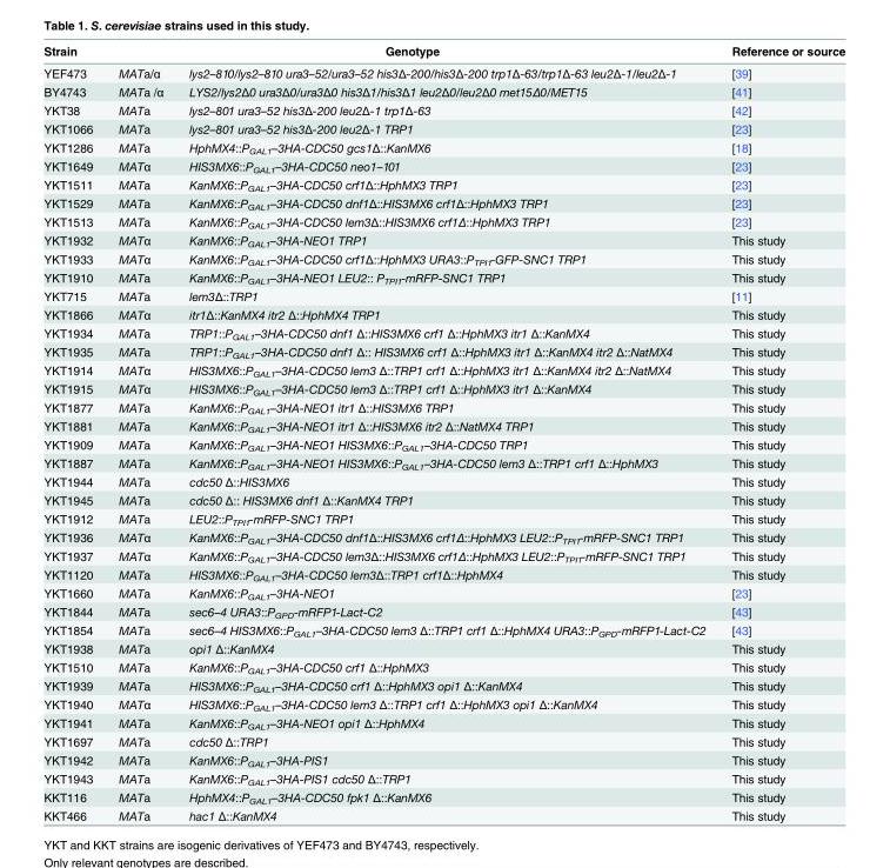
<table><thead><tr><td rowspan="2">Strain YEF473</td><td colspan="2">Genotype</td><td rowspan="2">Reference or source [39]</td></tr><tr><td>MATa/α</td><td>lys2–810/lys2–810 ura3–52/ura3–52 his3Δ-200/his3Δ-200 trp1Δ-63/trp1Δ-63 leu2Δ-1/leu2Δ-1</td></tr></thead><tbody><tr><td>BY4743</td><td>MATa /α</td><td>LYS2/lys2Δ0 ura3Δ0/ura3Δ0 his3Δ1/his3Δ1 leu2Δ0/leu2Δ0 met15Δ0/MET15</td><td>[41]</td></tr><tr><td>YKT38</td><td>MATa</td><td>lys2–801 ura3–52 his3Δ-200 leu2Δ-1 trp1Δ-63</td><td>[42]</td></tr><tr><td>YKT1066</td><td>MATa</td><td>lys2–801 ura3–52 his3Δ-200 leu2Δ-1 TRP1</td><td>[23]</td></tr><tr><td>YKT1286</td><td>MATa</td><td>HphMX4::P<sub>GAL1</sub>–3HA-CDC50 gcs1Δ::KanMX6</td><td>[18]</td></tr><tr><td>YKT1649</td><td>MATα</td><td>HIS3MX6::P<sub>GAL1</sub>–3HA-CDC50 neo1–101</td><td>[23]</td></tr><tr><td>YKT1511</td><td>MATa</td><td>KanMX6::P<sub>GAL1</sub>–3HA-CDC50 crf1Δ::HphMX3 TRP1</td><td>[23]</td></tr><tr><td>YKT1529</td><td>MATa</td><td>KanMX6::P<sub>GAL1</sub>–3HA-CDC50 dnf1Δ::HIS3MX6 crf1Δ::HphMX3 TRP1</td><td>[23]</td></tr><tr><td>YKT1513</td><td>MATa</td><td>KanMX6::P<sub>GAL1</sub>–3HA-CDC50 lem3Δ::HIS3MX6 crf1Δ::HphMX3 TRP1</td><td>[23]</td></tr><tr><td>YKT1932</td><td>MATα</td><td>KanMX6::P<sub>GAL1</sub>–3HA-NEO1 TRP1</td><td>This study</td></tr><tr><td>YKT1933</td><td>MATα</td><td>KanMX6::P<sub>GAL1</sub>–3HA-CDC50 crf1Δ::HphMX3 URA3::P<sub>TPI1</sub>-GFP-SNC1 TRP1</td><td>This study</td></tr><tr><td>YKT1910</td><td>MATa</td><td>KanMX6::P<sub>GAL1</sub>–3HA-NEO1 LEU2:: P<sub>TPI1</sub>-mRFP-SNC1 TRP1</td><td>This study</td></tr><tr><td>YKT715</td><td>MATa</td><td>lem3Δ::TRP1</td><td>[11]</td></tr><tr><td>YKT1866</td><td>MATα</td><td>itr1Δ::KanMX4 itr2 Δ::HphMX4 TRP1</td><td>This study</td></tr><tr><td>YKT1934</td><td>MATa</td><td>TRP1::P<sub>GAL1</sub>–3HA-CDC50 dnf1 Δ::HIS3MX6 crf1 Δ::HphMX3 itr1 Δ::KanMX4</td><td>This study</td></tr><tr><td>YKT1935</td><td>MATa</td><td>TRP1::P<sub>GAL1</sub>–3HA-CDC50 dnf1 Δ:: HIS3MX6 crf1 Δ::HphMX3 itr1 Δ::KanMX4 itr2 Δ::NatMX4</td><td>This study</td></tr><tr><td>YKT1914</td><td>MATα</td><td>HIS3MX6::P<sub>GAL1</sub>–3HA-CDC50 lem3 Δ::TRP1 crf1 Δ::HphMX3 itr1 Δ::KanMX4 itr2 Δ::NatMX4</td><td>This study</td></tr><tr><td>YKT1915</td><td>MATα</td><td>HIS3MX6::P<sub>GAL1</sub>–3HA-CDC50 lem3 Δ::TRP1 crf1 Δ::HphMX3 itr1 Δ::KanMX4</td><td>This study</td></tr><tr><td>YKT1877</td><td>MATa</td><td>KanMX6::P<sub>GAL1</sub>–3HA-NEO1 itr1 Δ::HIS3MX6 TRP1</td><td>This study</td></tr><tr><td>YKT1881</td><td>MATa</td><td>KanMX6::P<sub>GAL1</sub>–3HA-NEO1 itr1 Δ::HIS3MX6 itr2 Δ::NatMX4 TRP1</td><td>This study</td></tr><tr><td>YKT1909</td><td>MATa</td><td>KanMX6::P<sub>GAL1</sub>–3HA-NEO1 HIS3MX6::P<sub>GAL1</sub>–3HA-CDC50 TRP1</td><td>This study</td></tr><tr><td>YKT1887</td><td>MATa</td><td>KanMX6::P<sub>GAL1</sub>–3HA-NEO1 HIS3MX6::P<sub>GAL1</sub>–3HA-CDC50 lem3 Δ::TRP1 crf1 Δ::HphMX3</td><td>This study</td></tr><tr><td>YKT1944</td><td>MATa</td><td>cdc50 Δ::HIS3MX6</td><td>This study</td></tr><tr><td>YKT1945</td><td>MATa</td><td>cdc50 Δ:: HIS3MX6 dnf1 Δ::KanMX4 TRP1</td><td>This study</td></tr><tr><td>YKT1912</td><td>MATa</td><td>LEU2::P<sub>TPI1</sub>-mRFP-SNC1 TRP1</td><td>This study</td></tr><tr><td>YKT1936</td><td>MATα</td><td>KanMX6::P<sub>GAL1</sub>–3HA-CDC50 dnf1Δ::HIS3MX6 crf1Δ::HphMX3 LEU2::P<sub>TPI1</sub>-mRFP-SNC1 TRP1</td><td>This study</td></tr><tr><td>YKT1937</td><td>MATα</td><td>KanMX6::P<sub>GAL1</sub>–3HA-CDC50 lem3Δ::HIS3MX6 crf1Δ::HphMX3 LEU2::P<sub>TPI1</sub>-mRFP-SNC1 TRP1</td><td>This study</td></tr><tr><td>YKT1120</td><td>MATa</td><td>HIS3MX6::P<sub>GAL1</sub>–3HA-CDC50 lem3Δ::TRP1 crf1Δ::HphMX4</td><td>This study</td></tr><tr><td>YKT1660</td><td>MATa</td><td>KanMX6::P<sub>GAL1</sub>–3HA-NEO1</td><td>[23]</td></tr><tr><td>YKT1844</td><td>MATa</td><td>sec6–4 URA3::P<sub>GPD</sub>-mRFP1-Lact-C2</td><td>[43]</td></tr><tr><td>YKT1854</td><td>MATa</td><td>sec6–4 HIS3MX6::P<sub>GAL1</sub>–3HA-CDC50 lem3 Δ::TRP1 crf1 Δ::HphMX4 URA3::P<sub>GPD</sub>-mRFP1-Lact-C2</td><td>[43]</td></tr><tr><td>YKT1938</td><td>MATa</td><td>opi1 Δ::KanMX4</td><td>This study</td></tr><tr><td>YKT1510</td><td>MATa</td><td>KanMX6::P<sub>GAL1</sub>–3HA-CDC50 crf1 Δ::HphMX3</td><td>This study</td></tr><tr><td>YKT1939</td><td>MATa</td><td>HIS3MX6::P<sub>GAL1</sub>–3HA-CDC50 crf1 Δ::HphMX3 opi1 Δ::KanMX4</td><td>This study</td></tr><tr><td>YKT1940</td><td>MATα</td><td>HIS3MX6::P<sub>GAL1</sub>–3HA-CDC50 lem3 Δ::TRP1 crf1 Δ::HphMX3 opi1 Δ::KanMX4</td><td>This study</td></tr><tr><td>YKT1941</td><td>MATa</td><td>KanMX6::P<sub>GAL1</sub>–3HA-NEO1 opi1 Δ::HphMX4</td><td>This study</td></tr><tr><td>YKT1697</td><td>MATa</td><td>cdc50 Δ::TRP1</td><td>This study</td></tr><tr><td>YKT1942</td><td>MATa</td><td>KanMX6::P<sub>GAL1</sub>–3HA-PIS1</td><td>This study</td></tr><tr><td>YKT1943</td><td>MATa</td><td>KanMX6::P<sub>GAL1</sub>–3HA-PIS1 cdc50 Δ::TRP1</td><td>This study</td></tr><tr><td>KKT116</td><td>MATa</td><td>HphMX4::P<sub>GAL1</sub>–3HA-CDC50 fpk1 Δ::KanMX6</td><td>This study</td></tr><tr><td>KKT466</td><td>MATa</td><td>hac1 Δ::KanMX4</td><td>This study</td></tr></tbody></table>